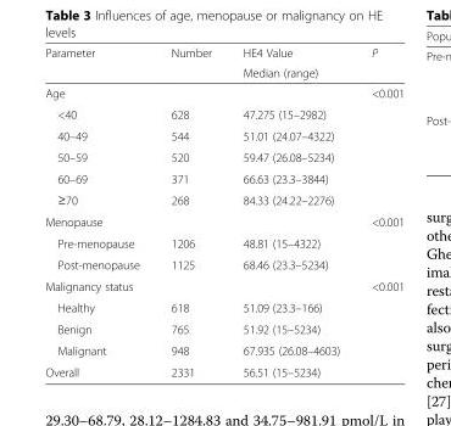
<table><thead><tr><td rowspan="2">Parameter</td><td rowspan="2">Number</td><td rowspan="2">HE4 Value Median (range)</td><td rowspan="2">P</td></tr><tr></tr></thead><tbody><tr><td>Age</td><td></td><td></td><td>&lt;0.001</td></tr><tr><td>&lt;40</td><td>628</td><td>47.275 (15–2982)</td><td></td></tr><tr><td>40–49</td><td>544</td><td>51.01 (24.07–4322)</td><td></td></tr><tr><td>50–59</td><td>520</td><td>59.47 (26.08–5234)</td><td></td></tr><tr><td>60–69</td><td>371</td><td>66.63 (23.3–3844)</td><td></td></tr><tr><td>≥70</td><td>268</td><td>84.33 (24.22–2276)</td><td></td></tr><tr><td>Menopause</td><td></td><td></td><td>&lt;0.001</td></tr><tr><td>Pre-menopause</td><td>1206</td><td>48.81 (15–4322)</td><td></td></tr><tr><td>Post-menopause</td><td>1125</td><td>68.46 (23.3–5234)</td><td></td></tr><tr><td>Malignancy status</td><td></td><td></td><td>&lt;0.001</td></tr><tr><td>Healthy</td><td>618</td><td>51.09 (23.3–166)</td><td></td></tr><tr><td>Benign</td><td>765</td><td>51.92 (15–5234)</td><td></td></tr><tr><td>Malignant</td><td>948</td><td>67.935 (26.08–4603)</td><td></td></tr><tr><td>Overall</td><td>2331</td><td>56.51 (15–5234)</td><td></td></tr></tbody></table>